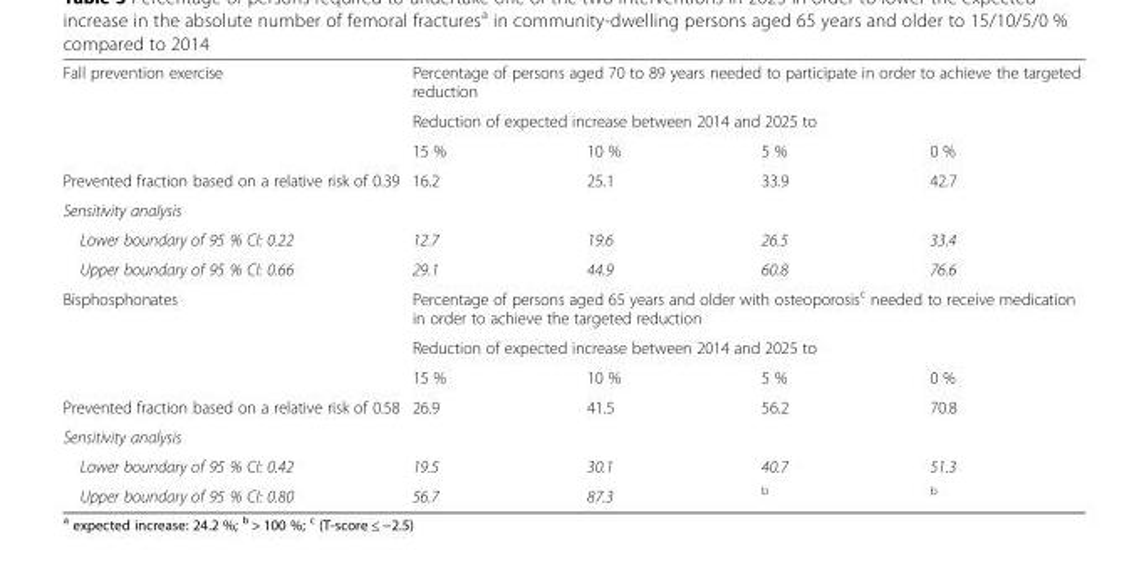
<table><tbody><tr><td rowspan="3">Fall prevention exercise</td><td colspan="4">Percentage of persons aged 70 to 89 years needed to participate in order to achieve the targeted reduction</td></tr><tr><td colspan="4">Reduction of expected increase between 2014 and 2025 to</td></tr><tr><td>15 %</td><td>10 %</td><td>5 %</td><td>0 %</td></tr><tr><td>Prevented fraction based on a relative risk of 0.39</td><td>16.2</td><td>25.1</td><td>33.9</td><td>42.7</td></tr><tr><td colspan="5">Sensitivity analysis</td></tr><tr><td>Lower boundary of 95 % CI: 0.22</td><td>12.7</td><td>19.6</td><td>26.5</td><td>33.4</td></tr><tr><td>Upper boundary of 95 % CI: 0.66</td><td>29.1</td><td>44.9</td><td>60.8</td><td>76.6</td></tr><tr><td rowspan="3">Bisphosphonates</td><td colspan="4">Percentage of persons aged 65 years and older with osteoporosis<sup>c</sup> needed to receive medication in order to achieve the targeted reduction</td></tr><tr><td colspan="4">Reduction of expected increase between 2014 and 2025 to</td></tr><tr><td>15 %</td><td>10 %</td><td>5 %</td><td>0 %</td></tr><tr><td>Prevented fraction based on a relative risk of 0.58</td><td>26.9</td><td>41.5</td><td>56.2</td><td>70.8</td></tr><tr><td colspan="5">Sensitivity analysis</td></tr><tr><td>Lower boundary of 95 % CI: 0.42</td><td>19.5</td><td>30.1</td><td>40.7</td><td>51.3</td></tr><tr><td>Upper boundary of 95 % CI: 0.80</td><td>56.7</td><td>87.3</td><td><sup>b</sup></td><td><sup>b</sup></td></tr></tbody></table>